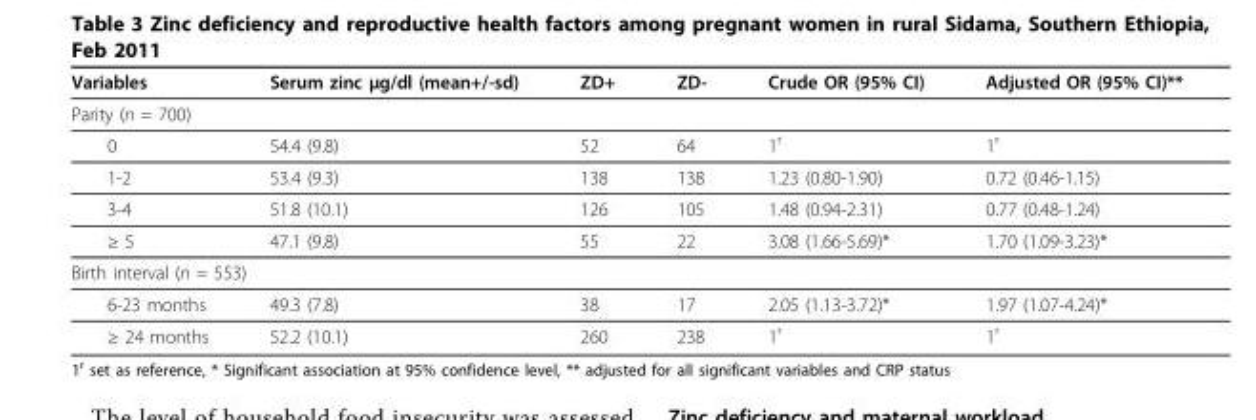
<table><thead><tr><td>Variables</td><td>Serum zinc μg/dl (mean+/-sd)</td><td>ZD+</td><td>ZD-</td><td>Crude OR (95% CI)</td><td>Adjusted OR (95% CI)**</td></tr></thead><tbody><tr><td colspan="6">Parity (n = 700)</td></tr><tr><td>0</td><td>54.4 (9.8)</td><td>52</td><td>64</td><td>1<sup>r</sup></td><td>1<sup>r</sup></td></tr><tr><td>1-2</td><td>53.4 (9.3)</td><td>138</td><td>138</td><td>1.23 (0.80-1.90)</td><td>0.72 (0.46-1.15)</td></tr><tr><td>3-4</td><td>51.8 (10.1)</td><td>126</td><td>105</td><td>1.48 (0.94-2.31)</td><td>0.77 (0.48-1.24)</td></tr><tr><td>≥ 5</td><td>47.1 (9.8)</td><td>55</td><td>22</td><td>3.08 (1.66-5.69)*</td><td>1.70 (1.09-3.23)*</td></tr><tr><td colspan="6">Birth interval (n = 553)</td></tr><tr><td>6-23 months</td><td>49.3 (7.8)</td><td>38</td><td>17</td><td>2.05 (1.13-3.72)*</td><td>1.97 (1.07-4.24)*</td></tr><tr><td>≥ 24 months</td><td>52.2 (10.1)</td><td>260</td><td>238</td><td>1<sup>r</sup></td><td>1<sup>r</sup></td></tr></tbody></table>